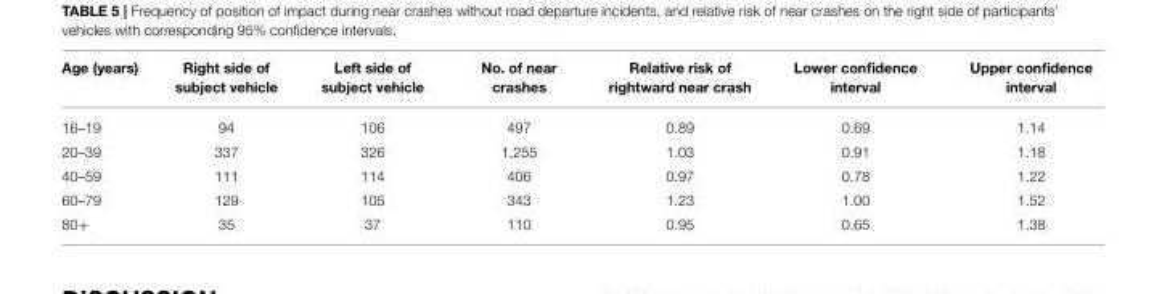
<table><thead><tr><td>Age (years)</td><td>Right side of subject vehicle</td><td>Left side of subject vehicle</td><td>No. of near crashes</td><td>Relative risk of rightward near crash</td><td>Lower confidence interval</td><td>Upper confidence interval</td></tr></thead><tbody><tr><td>16–19</td><td>94</td><td>106</td><td>497</td><td>0.89</td><td>0.69</td><td>1.14</td></tr><tr><td>20–39</td><td>337</td><td>326</td><td>1,255</td><td>1.03</td><td>0.91</td><td>1.18</td></tr><tr><td>40–59</td><td>111</td><td>114</td><td>406</td><td>0.97</td><td>0.78</td><td>1.22</td></tr><tr><td>60–79</td><td>129</td><td>105</td><td>343</td><td>1.23</td><td>1.00</td><td>1.52</td></tr><tr><td>80+</td><td>35</td><td>37</td><td>110</td><td>0.95</td><td>0.65</td><td>1.38</td></tr></tbody></table>